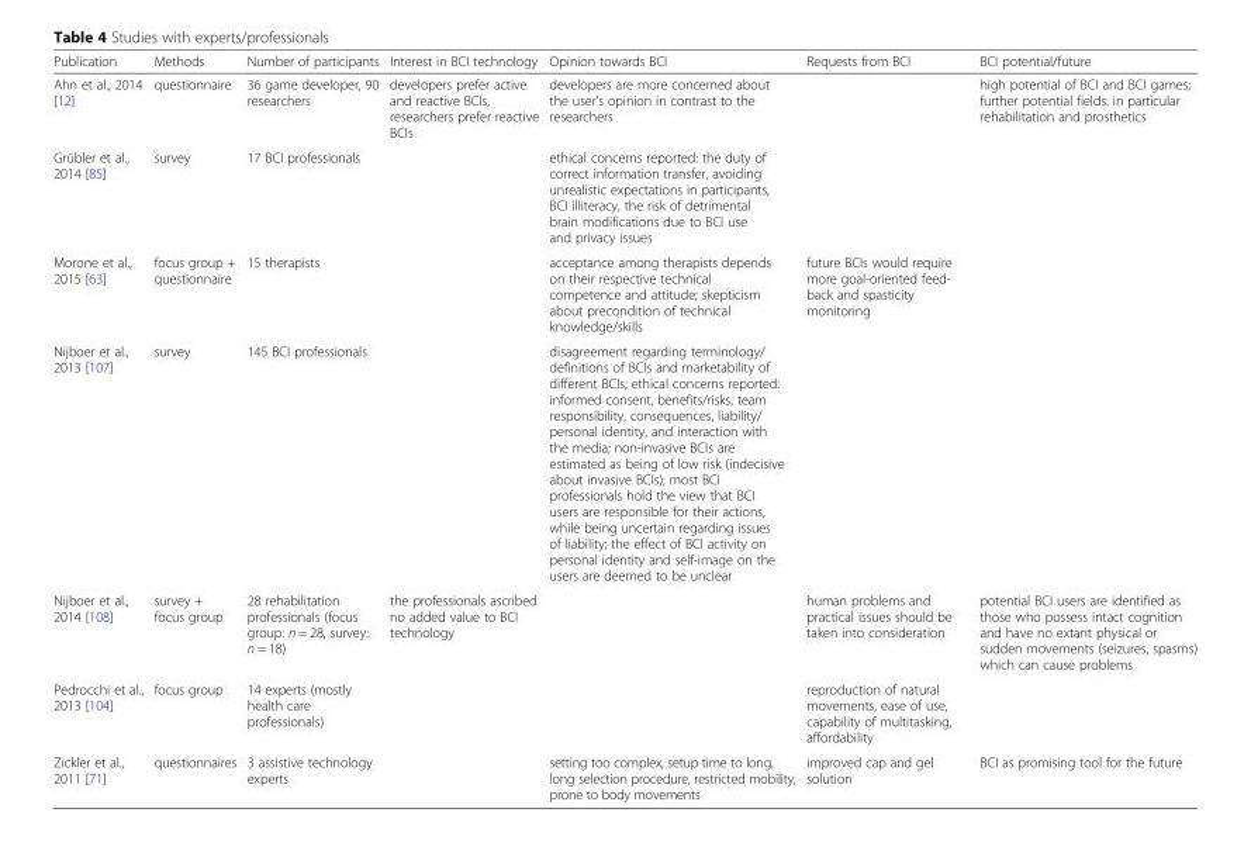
<table><thead><tr><td>Publication</td><td>Methods</td><td>Number of participants</td><td>Interest in BCI technology</td><td>Opinion towards BCI</td><td>Requests from BCI</td><td>BCI potential/future</td></tr></thead><tbody><tr><td>Ahn et al., 2014 [12]</td><td>questionnaire</td><td>36 game developer, 90 researchers</td><td>developers prefer active and reactive BCIs, researchers prefer reactive BCIs</td><td>developers are more concerned about the user’s opinion in contrast to the researchers</td><td></td><td>high potential of BCI and BCI games; further potential fields: in particular rehabilitation and prosthetics</td></tr><tr><td>Grübler et al., 2014 [85]</td><td>survey</td><td>17 BCI professionals</td><td></td><td>ethical concerns reported: the duty of correct information transfer, avoiding unrealistic expectations in participants, BCI illiteracy, the risk of detrimental brain modifications due to BCI use and privacy issues</td><td></td><td></td></tr><tr><td>Morone et al., 2015 [63]</td><td>focus group + questionnaire</td><td>15 therapists</td><td></td><td>acceptance among therapists depends on their respective technical competence and attitude; skepticism about precondition of technical knowledge/skills</td><td>future BCIs would require more goal-oriented feed- back and spasticity monitoring</td><td></td></tr><tr><td>Nijboer et al., 2013 [107]</td><td>survey</td><td>145 BCI professionals</td><td></td><td>disagreement regarding terminology/ definitions of BCIs and marketability of different BCIs; ethical concerns reported: informed consent, benefits/risks, team responsibility, consequences, liability/ personal identity, and interaction with the media; non-invasive BCIs are estimated as being of low risk (indecisive about invasive BCIs); most BCI professionals hold the view that BCI users are responsible for their actions, while being uncertain regarding issues of liability; the effect of BCI activity on personal identity and self-image on the users are deemed to be unclear</td><td></td><td></td></tr><tr><td>Nijboer et al., 2014 [108]</td><td>survey + focus group</td><td>28 rehabilitation professionals (focus group: n = 28, survey: n = 18)</td><td>the professionals ascribed no added value to BCI technology</td><td></td><td>human problems and practical issues should be taken into consideration</td><td>potential BCI users are identified as those who possess intact cognition and have no extant physical or sudden movements (seizures, spasms) which can cause problems</td></tr><tr><td>Pedrocchi et al., 2013 [104]</td><td>focus group</td><td>14 experts (mostly health care professionals)</td><td></td><td></td><td>reproduction of natural movements, ease of use, capability of multitasking, affordability</td><td></td></tr><tr><td>Zickler et al., 2011 [71]</td><td>questionnaires</td><td>3 assistive technology experts</td><td></td><td>setting too complex, setup time to long, long selection procedure, restricted mobility, prone to body movements</td><td>improved cap and gel solution</td><td>BCI as promising tool for the future</td></tr></tbody></table>